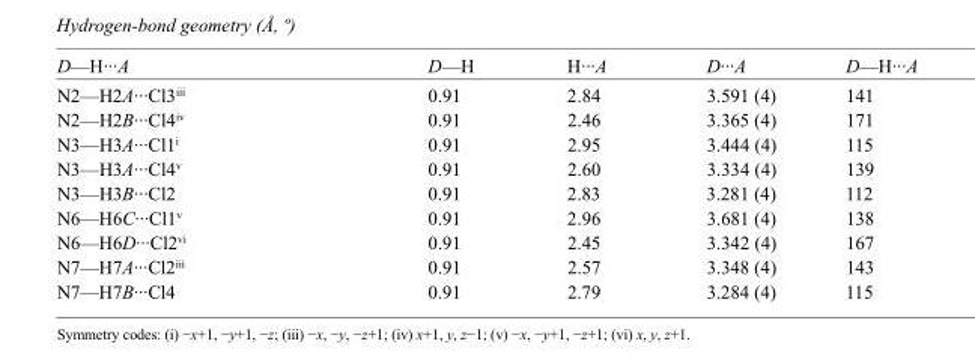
<table><tbody><tr><td>D—H···A</td><td>D—H</td><td>H···A</td><td>D···A</td><td>D—H···A</td></tr><tr><td>N2—H2A···Cl3<sup>iii</sup></td><td>0.91</td><td>2.84</td><td>3.591 (4)</td><td>141</td></tr><tr><td>N2—H2B···Cl4<sup>iv</sup></td><td>0.91</td><td>2.46</td><td>3.365 (4)</td><td>171</td></tr><tr><td>N3—H3A···Cl1<sup>i</sup></td><td>0.91</td><td>2.95</td><td>3.444 (4)</td><td>115</td></tr><tr><td>N3—H3A···Cl4<sup>v</sup></td><td>0.91</td><td>2.60</td><td>3.334 (4)</td><td>139</td></tr><tr><td>N3—H3B···Cl2</td><td>0.91</td><td>2.83</td><td>3.281 (4)</td><td>112</td></tr><tr><td>N6—H6C···Cl1<sup>v</sup></td><td>0.91</td><td>2.96</td><td>3.681 (4)</td><td>138</td></tr><tr><td>N6—H6D···Cl2<sup>vi</sup></td><td>0.91</td><td>2.45</td><td>3.342 (4)</td><td>167</td></tr><tr><td>N7—H7A···Cl2<sup>iii</sup></td><td>0.91</td><td>2.57</td><td>3.348 (4)</td><td>143</td></tr><tr><td>N7—H7B···Cl4</td><td>0.91</td><td>2.79</td><td>3.284 (4)</td><td>115</td></tr></tbody></table>